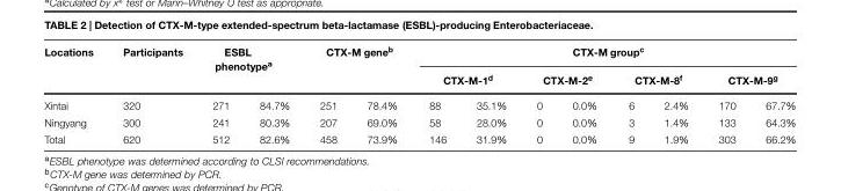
<table><thead><tr><td rowspan="3">Locations Xintai</td><td rowspan="3">Participants 320</td><td colspan="2">ESBL phenotype<sup>a</sup></td><td colspan="2">CTX-M gene<sup>b</sup></td><td colspan="8">CTX-M group<sup>c</sup></td></tr><tr><td rowspan="2">271</td><td rowspan="2">84.7%</td><td rowspan="2">251</td><td rowspan="2">78.4%</td><td colspan="2">CTX-M-1<sup>d</sup></td><td colspan="2">CTX-M-2<sup>e</sup></td><td colspan="2">CTX-M-8<sup>f</sup></td><td colspan="2">CTX-M-9<sup>g</sup></td></tr><tr><td>88</td><td>35.1%</td><td>0</td><td>0.0%</td><td>6</td><td>2.4%</td><td>170</td><td>67.7%</td></tr></thead><tbody><tr><td>Ningyang</td><td>300</td><td>241</td><td>80.3%</td><td>207</td><td>69.0%</td><td>58</td><td>28.0%</td><td>0</td><td>0.0%</td><td>3</td><td>1.4%</td><td>133</td><td>64.3%</td></tr><tr><td>Total</td><td>620</td><td>512</td><td>82.6%</td><td>458</td><td>73.9%</td><td>146</td><td>31.9%</td><td>0</td><td>0.0%</td><td>9</td><td>1.9%</td><td>303</td><td>66.2%</td></tr></tbody></table>